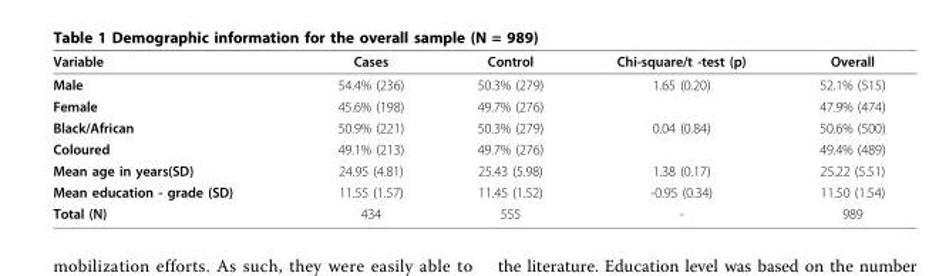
<table><thead><tr><td>Variable</td><td>Cases</td><td>Control</td><td>Chi-square/t -test (p)</td><td>Overall</td></tr></thead><tbody><tr><td>Male</td><td>54.4% (236)</td><td>50.3% (279)</td><td>1.65 (0.20)</td><td>52.1% (515)</td></tr><tr><td>Female</td><td>45.6% (198)</td><td>49.7% (276)</td><td></td><td>47.9% (474)</td></tr><tr><td>Black/African</td><td>50.9% (221)</td><td>50.3% (279)</td><td>0.04 (0.84)</td><td>50.6% (500)</td></tr><tr><td>Coloured</td><td>49.1% (213)</td><td>49.7% (276)</td><td></td><td>49.4% (489)</td></tr><tr><td>Mean age in years(SD)</td><td>24.95 (4.81)</td><td>25.43 (5.98)</td><td>1.38 (0.17)</td><td>25.22 (5.51)</td></tr><tr><td>Mean education - grade (SD)</td><td>11.55 (1.57)</td><td>11.45 (1.52)</td><td>-0.95 (0.34)</td><td>11.50 (1.54)</td></tr><tr><td>Total (N)</td><td>434</td><td>555</td><td>-</td><td>989</td></tr></tbody></table>